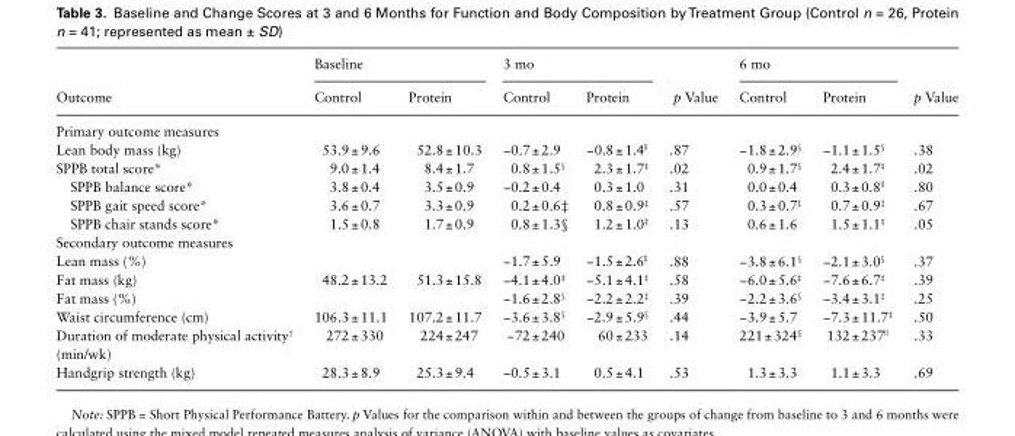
<table><thead><tr><td rowspan="2">Outcome</td><td colspan="2">Baseline</td><td colspan="2">3 mo</td><td rowspan="2">p Value</td><td colspan="2">6 mo</td><td rowspan="2">p Value</td></tr><tr><td>Control</td><td>Protein</td><td>Control</td><td>Protein</td><td>Control</td><td>Protein</td></tr></thead><tbody><tr><td colspan="9">Primary outcome measures</td></tr><tr><td>Lean body mass (kg)</td><td>53.9 ± 9.6</td><td>52.8 ± 10.3</td><td>−0.7 ± 2.9</td><td>−0.8 ± 1.4<sup>||</sup></td><td>.87</td><td>−1.8 ± 2.9<sup>§</sup></td><td>−1.1 ± 1.5<sup>§</sup></td><td>.38</td></tr><tr><td>SPPB total score*</td><td>9.0 ± 1.4</td><td>8.4 ± 1.7</td><td>0.8 ± 1.5<sup>§</sup></td><td>2.3 ± 1.7<sup>‡</sup></td><td>.02</td><td>0.9 ± 1.7<sup>§</sup></td><td>2.4 ± 1.7<sup>‡</sup></td><td>.02</td></tr><tr><td>SPPB balance score*</td><td>3.8 ± 0.4</td><td>3.5 ± 0.9</td><td>−0.2 ± 0.4</td><td>0.3 ± 1.0</td><td>.31</td><td>0.0 ± 0.4</td><td>0.3 ± 0.8<sup>||</sup></td><td>.80</td></tr><tr><td>SPPB gait speed score*</td><td>3.6 ± 0.7</td><td>3.3 ± 0.9</td><td>0.2 ± 0.6‡</td><td>0.8 ± 0.9<sup>‡</sup></td><td>.57</td><td>0.3 ± 0.7<sup>‡</sup></td><td>0.7 ± 0.9<sup>‡</sup></td><td>.67</td></tr><tr><td>SPPB chair stands score*</td><td>1.5 ± 0.8</td><td>1.7 ± 0.9</td><td>0.8 ± 1.3§</td><td>1.2 ± 1.0<sup>‡</sup></td><td>.13</td><td>0.6 ± 1.6</td><td>1.5 ± 1.1<sup>‡</sup></td><td>.05</td></tr><tr><td colspan="9">Secondary outcome measures</td></tr><tr><td>Lean mass (%)</td><td></td><td></td><td>−1.7 ± 5.9</td><td>−1.5 ± 2.6<sup>||</sup></td><td>.88</td><td>−3.8 ± 6.1<sup>§</sup></td><td>−2.1 ± 3.0<sup>§</sup></td><td>.37</td></tr><tr><td>Fat mass (kg)</td><td>48.2 ± 13.2</td><td>51.3 ± 15.8</td><td>−4.1 ± 4.0<sup>‡</sup></td><td>−5.1 ± 4.1<sup>‡</sup></td><td>.58</td><td>−6.0 ± 5.6<sup>‡</sup></td><td>−7.6 ± 6.7<sup>‡</sup></td><td>.39</td></tr><tr><td>Fat mass (%)</td><td></td><td></td><td>−1.6 ± 2.8<sup>§</sup></td><td>−2.2 ± 2.2<sup>‡</sup></td><td>.39</td><td>−2.2 ± 3.6<sup>§</sup></td><td>−3.4 ± 3.1<sup>‡</sup></td><td>.25</td></tr><tr><td>Waist circumference (cm)</td><td>106.3 ± 11.1</td><td>107.2 ± 11.7</td><td>−3.6 ± 3.8<sup>§</sup></td><td>−2.9 ± 5.9<sup>§</sup></td><td>.44</td><td>−3.9 ± 5.7</td><td>−7.3 ± 11.7<sup>‡</sup></td><td>.50</td></tr><tr><td>Duration of moderate physical activity<sup>†</sup> (min/wk)</td><td>272 ± 330</td><td>224 ± 247</td><td>−72 ± 240</td><td>60 ± 233</td><td>.14</td><td>221 ± 324<sup>§</sup></td><td>132 ± 237<sup>||</sup></td><td>.33</td></tr><tr><td>Handgrip strength (kg)</td><td>28.3 ± 8.9</td><td>25.3 ± 9.4</td><td>−0.5 ± 3.1</td><td>0.5 ± 4.1</td><td>.53</td><td>1.3 ± 3.3</td><td>1.1 ± 3.3</td><td>.69</td></tr></tbody></table>